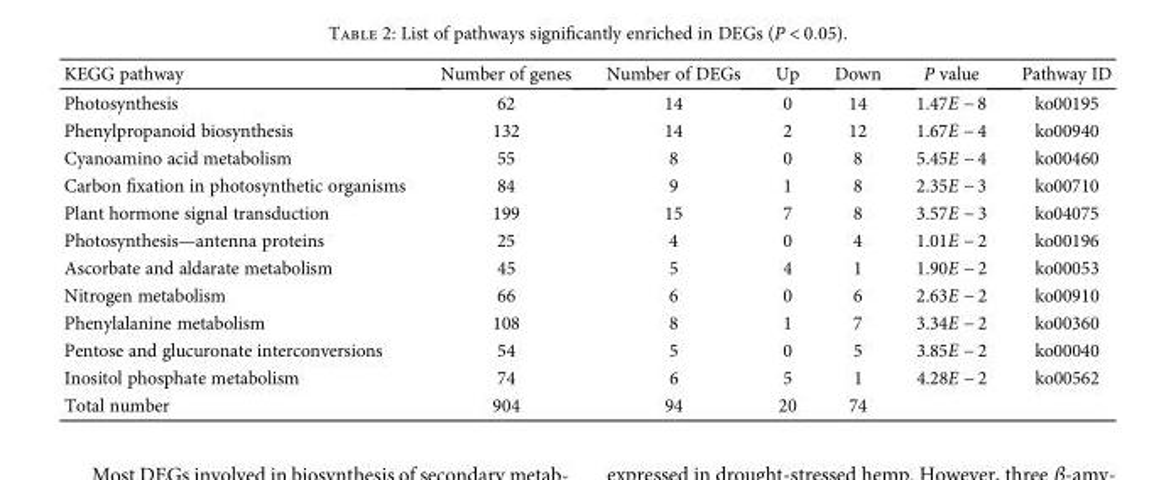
<table><thead><tr><td>KEGG pathway</td><td>Number of genes</td><td>Number of DEGs</td><td>Up</td><td>Down</td><td>P value</td><td>Pathway ID</td></tr></thead><tbody><tr><td>Photosynthesis</td><td>62</td><td>14</td><td>0</td><td>14</td><td>1.47E − 8</td><td>ko00195</td></tr><tr><td>Phenylpropanoid biosynthesis</td><td>132</td><td>14</td><td>2</td><td>12</td><td>1.67E − 4</td><td>ko00940</td></tr><tr><td>Cyanoamino acid metabolism</td><td>55</td><td>8</td><td>0</td><td>8</td><td>5.45E − 4</td><td>ko00460</td></tr><tr><td>Carbon fixation in photosynthetic organisms</td><td>84</td><td>9</td><td>1</td><td>8</td><td>2.35E − 3</td><td>ko00710</td></tr><tr><td>Plant hormone signal transduction</td><td>199</td><td>15</td><td>7</td><td>8</td><td>3.57E − 3</td><td>ko04075</td></tr><tr><td>Photosynthesis—antenna proteins</td><td>25</td><td>4</td><td>0</td><td>4</td><td>1.01E − 2</td><td>ko00196</td></tr><tr><td>Ascorbate and aldarate metabolism</td><td>45</td><td>5</td><td>4</td><td>1</td><td>1.90E − 2</td><td>ko00053</td></tr><tr><td>Nitrogen metabolism</td><td>66</td><td>6</td><td>0</td><td>6</td><td>2.63E − 2</td><td>ko00910</td></tr><tr><td>Phenylalanine metabolism</td><td>108</td><td>8</td><td>1</td><td>7</td><td>3.34E − 2</td><td>ko00360</td></tr><tr><td>Pentose and glucuronate interconversions</td><td>54</td><td>5</td><td>0</td><td>5</td><td>3.85E − 2</td><td>ko00040</td></tr><tr><td>Inositol phosphate metabolism</td><td>74</td><td>6</td><td>5</td><td>1</td><td>4.28E − 2</td><td>ko00562</td></tr><tr><td>Total number</td><td>904</td><td>94</td><td>20</td><td>74</td><td></td><td></td></tr></tbody></table>